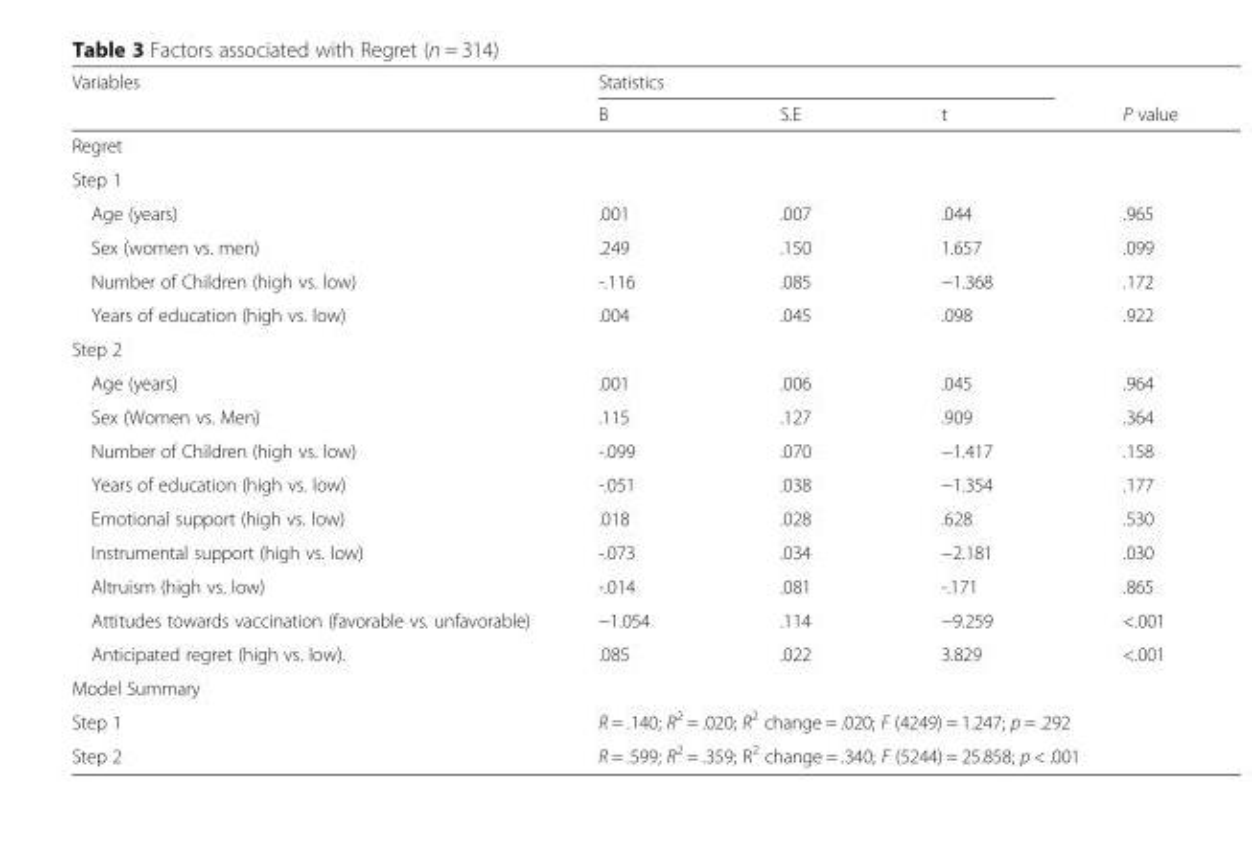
<table><thead><tr><td rowspan="2">Variables</td><td colspan="3">Statistics</td><td rowspan="2">P value</td></tr><tr><td>B</td><td>S.E</td><td>t</td></tr></thead><tbody><tr><td colspan="5">Regret</td></tr><tr><td colspan="5">Step 1</td></tr><tr><td>Age (years)</td><td>.001</td><td>.007</td><td>.044</td><td>.965</td></tr><tr><td>Sex (women vs. men)</td><td>.249</td><td>.150</td><td>1.657</td><td>.099</td></tr><tr><td>Number of Children (high vs. low)</td><td>-.116</td><td>.085</td><td>−1.368</td><td>.172</td></tr><tr><td>Years of education (high vs. low)</td><td>.004</td><td>.045</td><td>.098</td><td>.922</td></tr><tr><td colspan="5">Step 2</td></tr><tr><td>Age (years)</td><td>.001</td><td>.006</td><td>.045</td><td>.964</td></tr><tr><td>Sex (Women vs. Men)</td><td>.115</td><td>.127</td><td>.909</td><td>.364</td></tr><tr><td>Number of Children (high vs. low)</td><td>-.099</td><td>.070</td><td>−1.417</td><td>.158</td></tr><tr><td>Years of education (high vs. low)</td><td>-.051</td><td>.038</td><td>−1.354</td><td>.177</td></tr><tr><td>Emotional support (high vs. low)</td><td>.018</td><td>.028</td><td>.628</td><td>.530</td></tr><tr><td>Instrumental support (high vs. low)</td><td>-.073</td><td>.034</td><td>−2.181</td><td>.030</td></tr><tr><td>Altruism (high vs. low)</td><td>-.014</td><td>.081</td><td>-.171</td><td>.865</td></tr><tr><td>Attitudes towards vaccination (favorable vs. unfavorable)</td><td>−1.054</td><td>.114</td><td>−9.259</td><td>&lt;.001</td></tr><tr><td>Anticipated regret (high vs. low).</td><td>.085</td><td>.022</td><td>3.829</td><td>&lt;.001</td></tr><tr><td colspan="5">Model Summary</td></tr><tr><td>Step 1</td><td colspan="4">R = .140; R<sup>2</sup> = .020; R<sup>2</sup> change = .020; F (4249) = 1.247; p = .292</td></tr><tr><td>Step 2</td><td colspan="4">R = .599; R<sup>2</sup> = .359; R<sup>2</sup> change = .340; F (5244) = 25.858; p &lt; .001</td></tr></tbody></table>